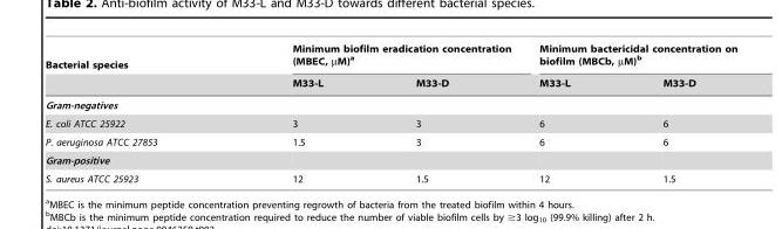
<table><thead><tr><td rowspan="2">Bacterial species</td><td colspan="2">Minimum biofilm eradication concentration (MBEC, µM)<sup>a</sup></td><td colspan="2">Minimum bactericidal concentration on biofilm (MBCb, µM)<sup>b</sup></td></tr><tr><td>M33-L</td><td>M33-D</td><td>M33-L</td><td>M33-D</td></tr></thead><tbody><tr><td colspan="5">Gram-negatives</td></tr><tr><td>E. coli ATCC 25922</td><td>3</td><td>3</td><td>6</td><td>6</td></tr><tr><td>P. aeruginosa ATCC 27853</td><td>1.5</td><td>3</td><td>6</td><td>6</td></tr><tr><td colspan="5">Gram-positive</td></tr><tr><td>S. aureus ATCC 25923</td><td>12</td><td>1.5</td><td>12</td><td>1.5</td></tr></tbody></table>